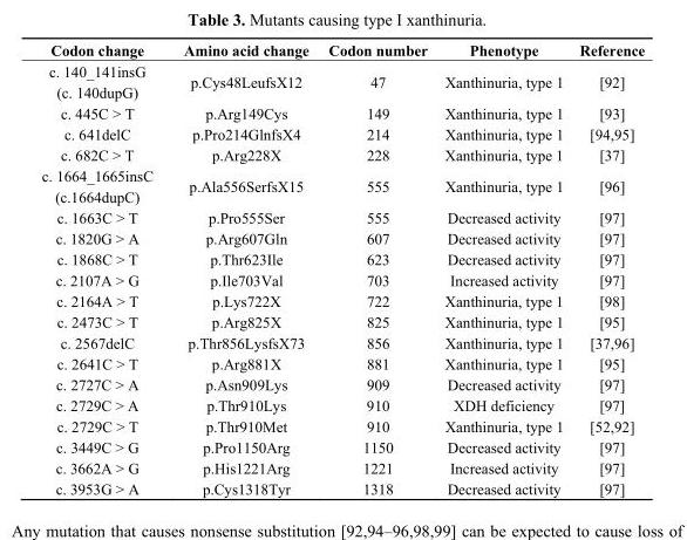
<table><thead><tr><td>Codon change</td><td>Amino acid change</td><td>Codon number</td><td>Phenotype</td><td>Reference</td></tr></thead><tbody><tr><td>c. 140_141insG (c. 140dupG)</td><td>p.Cys48LeufsX12</td><td>47</td><td>Xanthinuria, type 1</td><td>[92]</td></tr><tr><td>c. 445C &gt; T</td><td>p.Arg149Cys</td><td>149</td><td>Xanthinuria, type 1</td><td>[93]</td></tr><tr><td>c. 641delC</td><td>p.Pro214GlnfsX4</td><td>214</td><td>Xanthinuria, type 1</td><td>[94,95]</td></tr><tr><td>c. 682C &gt; T</td><td>p.Arg228X</td><td>228</td><td>Xanthinuria, type 1</td><td>[37]</td></tr><tr><td>c. 1664_1665insC (c.1664dupC)</td><td>p.Ala556SerfsX15</td><td>555</td><td>Xanthinuria, type 1</td><td>[96]</td></tr><tr><td>c. 1663C &gt; T</td><td>p.Pro555Ser</td><td>555</td><td>Decreased activity</td><td>[97]</td></tr><tr><td>c. 1820G &gt; A</td><td>p.Arg607Gln</td><td>607</td><td>Decreased activity</td><td>[97]</td></tr><tr><td>c. 1868C &gt; T</td><td>p.Thr623Ile</td><td>623</td><td>Decreased activity</td><td>[97]</td></tr><tr><td>c. 2107A &gt; G</td><td>p.Ile703Val</td><td>703</td><td>Increased activity</td><td>[97]</td></tr><tr><td>c. 2164A &gt; T</td><td>p.Lys722X</td><td>722</td><td>Xanthinuria, type 1</td><td>[98]</td></tr><tr><td>c. 2473C &gt; T</td><td>p.Arg825X</td><td>825</td><td>Xanthinuria, type 1</td><td>[95]</td></tr><tr><td>c. 2567delC</td><td>p.Thr856LysfsX73</td><td>856</td><td>Xanthinuria, type 1</td><td>[37,96]</td></tr><tr><td>c. 2641C &gt; T</td><td>p.Arg881X</td><td>881</td><td>Xanthinuria, type 1</td><td>[95]</td></tr><tr><td>c. 2727C &gt; A</td><td>p.Asn909Lys</td><td>909</td><td>Decreased activity</td><td>[97]</td></tr><tr><td>c. 2729C &gt; A</td><td>p.Thr910Lys</td><td>910</td><td>XDH deficiency</td><td>[97]</td></tr><tr><td>c. 2729C &gt; T</td><td>p.Thr910Met</td><td>910</td><td>Xanthinuria, type 1</td><td>[52,92]</td></tr><tr><td>c. 3449C &gt; G</td><td>p.Pro1150Arg</td><td>1150</td><td>Decreased activity</td><td>[97]</td></tr><tr><td>c. 3662A &gt; G</td><td>p.His1221Arg</td><td>1221</td><td>Increased activity</td><td>[97]</td></tr><tr><td>c. 3953G &gt; A</td><td>p.Cys1318Tyr</td><td>1318</td><td>Decreased activity</td><td>[97]</td></tr></tbody></table>